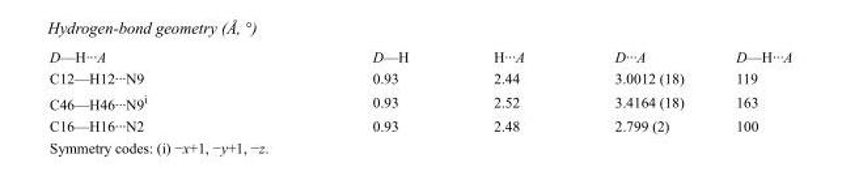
<table><tbody><tr><td>D—H···A</td><td>D—H</td><td>H···A</td><td>D···A</td><td>D—H···A</td></tr><tr><td>C12—H12···N9</td><td>0.93</td><td>2.44</td><td>3.0012 (18)</td><td>119</td></tr><tr><td>C46—H46···N9<sup>i</sup></td><td>0.93</td><td>2.52</td><td>3.4164 (18)</td><td>163</td></tr><tr><td>C16—H16···N2</td><td>0.93</td><td>2.48</td><td>2.799 (2)</td><td>100</td></tr></tbody></table>